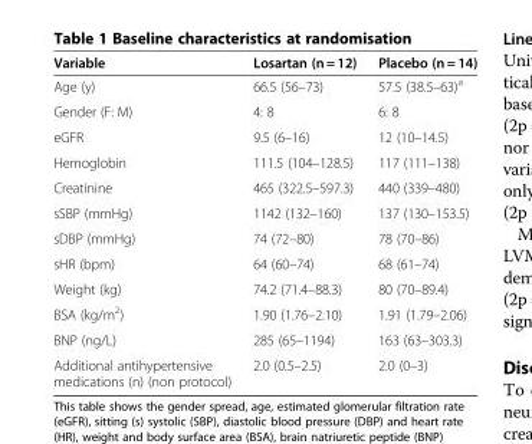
<table><thead><tr><td>Variable</td><td>Losartan (n = 12)</td><td>Placebo (n = 14)</td></tr></thead><tbody><tr><td>Age (y)</td><td>66.5 (56–73)</td><td>57.5 (38.5–63)<sup>a</sup></td></tr><tr><td>Gender (F: M)</td><td>4: 8</td><td>6: 8</td></tr><tr><td>eGFR</td><td>9.5 (6–16)</td><td>12 (10–14.5)</td></tr><tr><td>Hemoglobin</td><td>111.5 (104–128.5)</td><td>117 (111–138)</td></tr><tr><td>Creatinine</td><td>465 (322.5–597.3)</td><td>440 (339–480)</td></tr><tr><td>sSBP (mmHg)</td><td>1142 (132–160)</td><td>137 (130–153.5)</td></tr><tr><td>sDBP (mmHg)</td><td>74 (72–80)</td><td>78 (70–86)</td></tr><tr><td>sHR (bpm)</td><td>64 (60–74)</td><td>68 (61–74)</td></tr><tr><td>Weight (kg)</td><td>74.2 (71.4–88.3)</td><td>80 (70–89.4)</td></tr><tr><td>BSA (kg/m<sup>2</sup>)</td><td>1.90 (1.76–2.10)</td><td>1.91 (1.79–2.06)</td></tr><tr><td>BNP (ng/L)</td><td>285 (65–1194)</td><td>163 (63–303.3)</td></tr><tr><td>Additional antihypertensive medications (n) (non protocol)</td><td>2.0 (0.5–2.5)</td><td>2.0 (0–3)</td></tr></tbody></table>